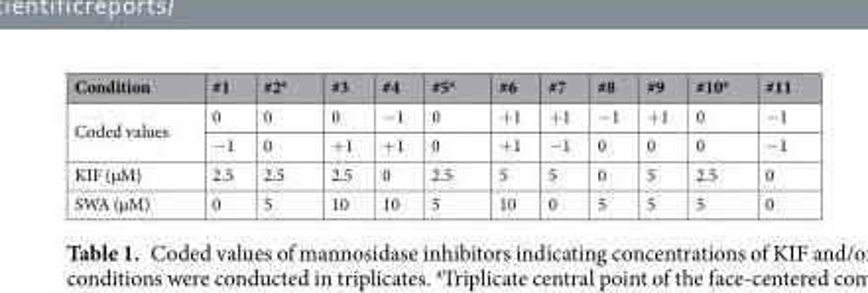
<table><thead><tr><td>Condition</td><td>#1</td><td>#2<sup>a</sup></td><td>#3</td><td>#4</td><td>#5<sup>a</sup></td><td>#6</td><td>#7</td><td>#8</td><td>#9</td><td>#10<sup>a</sup></td><td>#11</td></tr></thead><tbody><tr><td rowspan="2">Coded values</td><td>0</td><td>0</td><td>0</td><td>−1</td><td>0</td><td>+1</td><td>+1</td><td>−1</td><td>+1</td><td>0</td><td>−1</td></tr><tr><td>−1</td><td>0</td><td>+1</td><td>+1</td><td>0</td><td>+1</td><td>−1</td><td>0</td><td>0</td><td>0</td><td>−1</td></tr><tr><td>KIF (µM)</td><td>2.5</td><td>2.5</td><td>2.5</td><td>0</td><td>2.5</td><td>5</td><td>5</td><td>0</td><td>5</td><td>2.5</td><td>0</td></tr><tr><td>SWA (µM)</td><td>0</td><td>5</td><td>10</td><td>10</td><td>5</td><td>10</td><td>0</td><td>5</td><td>5</td><td>5</td><td>0</td></tr></tbody></table>